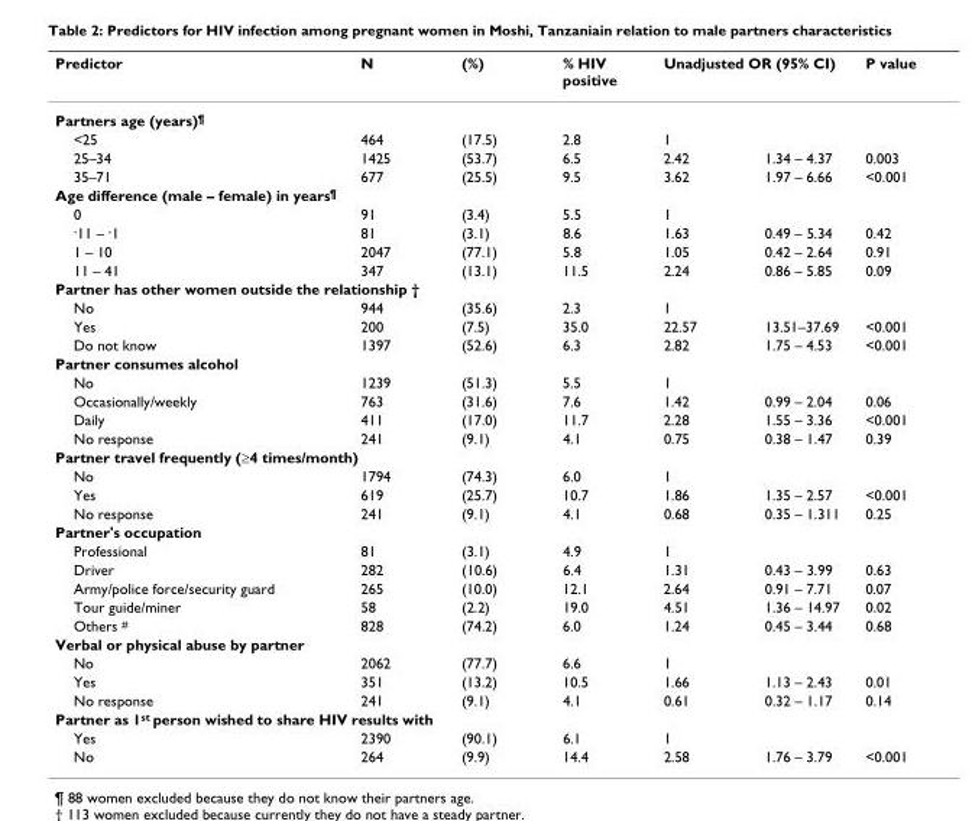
<table><thead><tr><td>Predictor</td><td>N</td><td>(%)</td><td>% HIV positive</td><td colspan="2">Unadjusted OR (95% CI)</td><td>P value</td></tr><tr><td colspan="7">Partners age (years)<sup>¶</sup></td></tr><tr><td>&lt;25</td><td>464</td><td>(17.5)</td><td>2.8</td><td>1</td><td></td><td></td></tr></thead><tbody><tr><td>25–34</td><td>1425</td><td>(53.7)</td><td>6.5</td><td>2.42</td><td>1.34 – 4.37</td><td>0.003</td></tr><tr><td>35–71</td><td>677</td><td>(25.5)</td><td>9.5</td><td>3.62</td><td>1.97 – 6.66</td><td>&lt;0.001</td></tr><tr><td colspan="7">Age difference (male – female) in years<sup>¶</sup></td></tr><tr><td>0</td><td>91</td><td>(3.4)</td><td>5.5</td><td>1</td><td></td><td></td></tr><tr><td><sup>-</sup>11 – <sup>-</sup>1</td><td>81</td><td>(3.1)</td><td>8.6</td><td>1.63</td><td>0.49 – 5.34</td><td>0.42</td></tr><tr><td>1 – 10</td><td>2047</td><td>(77.1)</td><td>5.8</td><td>1.05</td><td>0.42 – 2.64</td><td>0.91</td></tr><tr><td>11 – 41</td><td>347</td><td>(13.1)</td><td>11.5</td><td>2.24</td><td>0.86 – 5.85</td><td>0.09</td></tr><tr><td colspan="7">Partner has other women outside the relationship †</td></tr><tr><td>No</td><td>944</td><td>(35.6)</td><td>2.3</td><td>1</td><td></td><td></td></tr><tr><td>Yes</td><td>200</td><td>(7.5)</td><td>35.0</td><td>22.57</td><td>13.51–37.69</td><td>&lt;0.001</td></tr><tr><td>Do not know</td><td>1397</td><td>(52.6)</td><td>6.3</td><td>2.82</td><td>1.75 – 4.53</td><td>&lt;0.001</td></tr><tr><td colspan="7">Partner consumes alcohol</td></tr><tr><td>No</td><td>1239</td><td>(51.3)</td><td>5.5</td><td>1</td><td></td><td></td></tr><tr><td>Occasionally/weekly</td><td>763</td><td>(31.6)</td><td>7.6</td><td>1.42</td><td>0.99 – 2.04</td><td>0.06</td></tr><tr><td>Daily</td><td>411</td><td>(17.0)</td><td>11.7</td><td>2.28</td><td>1.55 – 3.36</td><td>&lt;0.001</td></tr><tr><td>No response</td><td>241</td><td>(9.1)</td><td>4.1</td><td>0.75</td><td>0.38 – 1.47</td><td>0.39</td></tr><tr><td colspan="7">Partner travel frequently (≥4 times/month)</td></tr><tr><td>No</td><td>1794</td><td>(74.3)</td><td>6.0</td><td>1</td><td></td><td></td></tr><tr><td>Yes</td><td>619</td><td>(25.7)</td><td>10.7</td><td>1.86</td><td>1.35 – 2.57</td><td>&lt;0.001</td></tr><tr><td>No response</td><td>241</td><td>(9.1)</td><td>4.1</td><td>0.68</td><td>0.35 – 1.311</td><td>0.25</td></tr><tr><td colspan="7">Partner&#x27;s occupation</td></tr><tr><td>Professional</td><td>81</td><td>(3.1)</td><td>4.9</td><td>1</td><td></td><td></td></tr><tr><td>Driver</td><td>282</td><td>(10.6)</td><td>6.4</td><td>1.31</td><td>0.43 – 3.99</td><td>0.63</td></tr><tr><td>Army/police force/security guard</td><td>265</td><td>(10.0)</td><td>12.1</td><td>2.64</td><td>0.91 – 7.71</td><td>0.07</td></tr><tr><td>Tour guide/miner</td><td>58</td><td>(2.2)</td><td>19.0</td><td>4.51</td><td>1.36 – 14.97</td><td>0.02</td></tr><tr><td>Others <sup>#</sup></td><td>828</td><td>(74.2)</td><td>6.0</td><td>1.24</td><td>0.45 – 3.44</td><td>0.68</td></tr><tr><td colspan="7">Verbal or physical abuse by partner</td></tr><tr><td>No</td><td>2062</td><td>(77.7)</td><td>6.6</td><td>1</td><td></td><td></td></tr><tr><td>Yes</td><td>351</td><td>(13.2)</td><td>10.5</td><td>1.66</td><td>1.13 – 2.43</td><td>0.01</td></tr><tr><td>No response</td><td>241</td><td>(9.1)</td><td>4.1</td><td>0.61</td><td>0.32 – 1.17</td><td>0.14</td></tr><tr><td colspan="7">Partner as 1<sup>st</sup> person wished to share HIV results with</td></tr><tr><td>Yes</td><td>2390</td><td>(90.1)</td><td>6.1</td><td>1</td><td></td><td></td></tr><tr><td>No</td><td>264</td><td>(9.9)</td><td>14.4</td><td>2.58</td><td>1.76 – 3.79</td><td>&lt;0.001</td></tr></tbody></table>